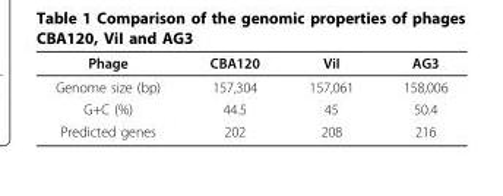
<table><thead><tr><td>Phage</td><td>CBA120</td><td>ViI</td><td>AG3</td></tr></thead><tbody><tr><td>Genome size (bp)</td><td>157,304</td><td>157,061</td><td>158,006</td></tr><tr><td>G+C (%)</td><td>44.5</td><td>45</td><td>50.4</td></tr><tr><td>Predicted genes</td><td>202</td><td>208</td><td>216</td></tr></tbody></table>